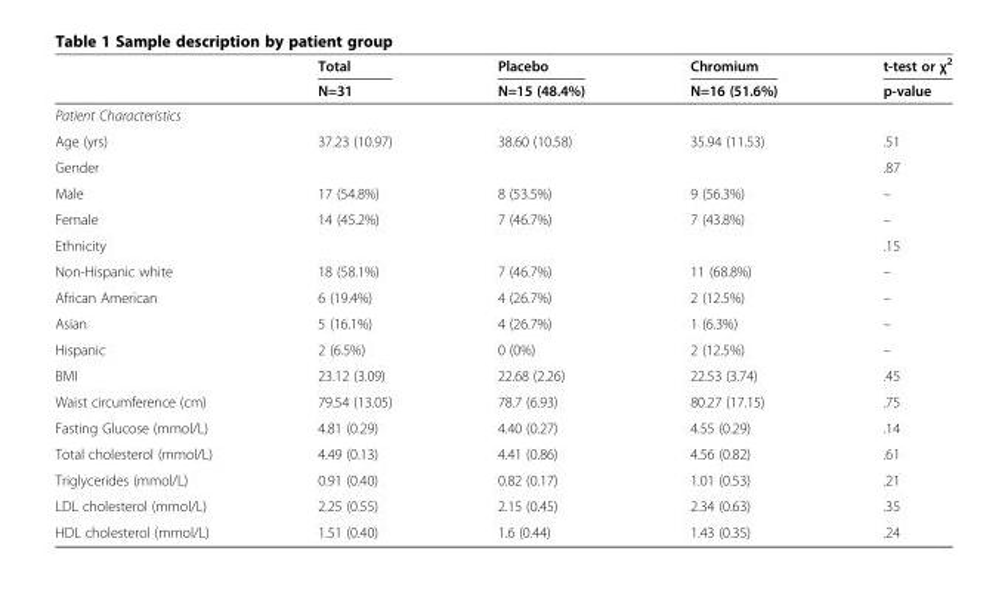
<table><thead><tr><td rowspan="2"></td><td rowspan="2">Total N=31</td><td rowspan="2">Placebo N=15 (48.4%)</td><td rowspan="2">Chromium N=16 (51.6%)</td><td rowspan="2">t-test or χ<sup>2</sup> p-value</td></tr><tr></tr></thead><tbody><tr><td colspan="5">Patient Characteristics</td></tr><tr><td>Age (yrs)</td><td>37.23 (10.97)</td><td>38.60 (10.58)</td><td>35.94 (11.53)</td><td>.51</td></tr><tr><td>Gender</td><td></td><td></td><td></td><td>.87</td></tr><tr><td>Male</td><td>17 (54.8%)</td><td>8 (53.5%)</td><td>9 (56.3%)</td><td>–</td></tr><tr><td>Female</td><td>14 (45.2%)</td><td>7 (46.7%)</td><td>7 (43.8%)</td><td>–</td></tr><tr><td>Ethnicity</td><td></td><td></td><td></td><td>.15</td></tr><tr><td>Non-Hispanic white</td><td>18 (58.1%)</td><td>7 (46.7%)</td><td>11 (68.8%)</td><td>–</td></tr><tr><td>African American</td><td>6 (19.4%)</td><td>4 (26.7%)</td><td>2 (12.5%)</td><td>–</td></tr><tr><td>Asian</td><td>5 (16.1%)</td><td>4 (26.7%)</td><td>1 (6.3%)</td><td>–</td></tr><tr><td>Hispanic</td><td>2 (6.5%)</td><td>0 (0%)</td><td>2 (12.5%)</td><td>–</td></tr><tr><td>BMI</td><td>23.12 (3.09)</td><td>22.68 (2.26)</td><td>22.53 (3.74)</td><td>.45</td></tr><tr><td>Waist circumference (cm)</td><td>79.54 (13.05)</td><td>78.7 (6.93)</td><td>80.27 (17.15)</td><td>.75</td></tr><tr><td>Fasting Glucose (mmol/L)</td><td>4.81 (0.29)</td><td>4.40 (0.27)</td><td>4.55 (0.29)</td><td>.14</td></tr><tr><td>Total cholesterol (mmol/L)</td><td>4.49 (0.13)</td><td>4.41 (0.86)</td><td>4.56 (0.82)</td><td>.61</td></tr><tr><td>Triglycerides (mmol/L)</td><td>0.91 (0.40)</td><td>0.82 (0.17)</td><td>1.01 (0.53)</td><td>.21</td></tr><tr><td>LDL cholesterol (mmol/L)</td><td>2.25 (0.55)</td><td>2.15 (0.45)</td><td>2.34 (0.63)</td><td>.35</td></tr><tr><td>HDL cholesterol (mmol/L)</td><td>1.51 (0.40)</td><td>1.6 (0.44)</td><td>1.43 (0.35)</td><td>.24</td></tr></tbody></table>